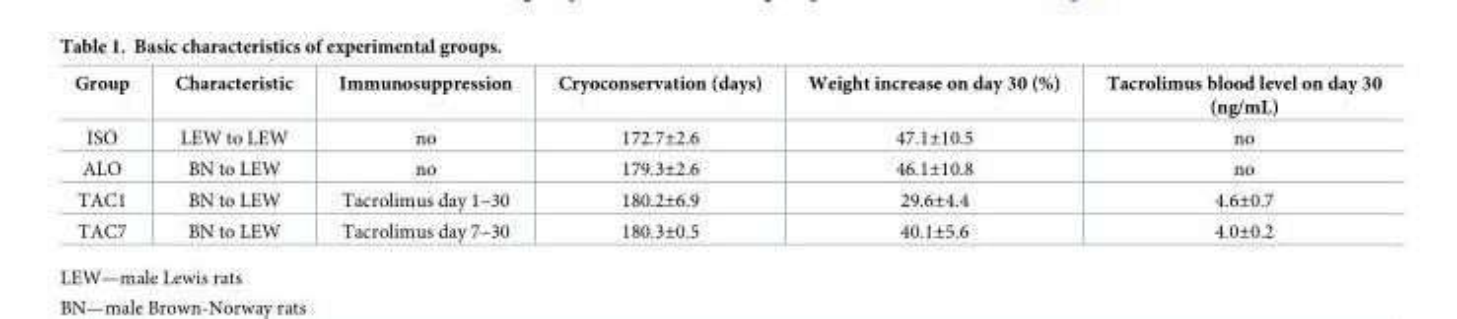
<table><thead><tr><td>Group</td><td>Characteristic</td><td>Immunosuppression</td><td>Cryoconservation (days)</td><td>Weight increase on day 30 (%)</td><td>Tacrolimus blood level on day 30 (ng/mL)</td></tr></thead><tbody><tr><td>ISO</td><td>LEW to LEW</td><td>no</td><td>172.7±2.6</td><td>47.1±10.5</td><td>no</td></tr><tr><td>ALO</td><td>BN to LEW</td><td>no</td><td>179.3±2.6</td><td>46.1±10.8</td><td>no</td></tr><tr><td>TAC1</td><td>BN to LEW</td><td>Tacrolimus day 1–30</td><td>180.2±6.9</td><td>29.6±4.4</td><td>4.6±0.7</td></tr><tr><td>TAC7</td><td>BN to LEW</td><td>Tacrolimus day 7–30</td><td>180.3±0.5</td><td>40.1±5.6</td><td>4.0±0.2</td></tr></tbody></table>